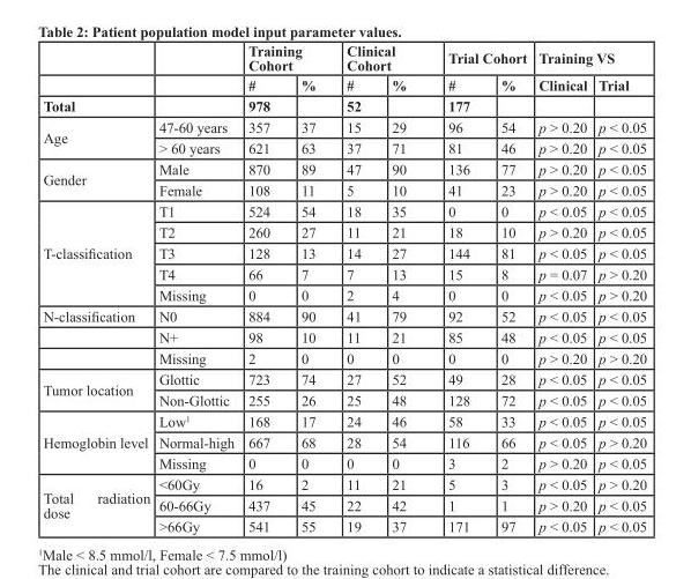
<table><thead><tr><td rowspan="3">total</td><td rowspan="3"></td><td colspan="2">Training cohort</td><td colspan="2">clinical cohort</td><td colspan="2">trial cohort</td><td colspan="2">Training VS</td></tr><tr><td rowspan="2"># 978</td><td rowspan="2">%</td><td rowspan="2"># 52</td><td rowspan="2">%</td><td rowspan="2"># 177</td><td rowspan="2">%</td><td rowspan="2">clinical</td><td rowspan="2">trial</td></tr><tr></tr></thead><tbody><tr><td rowspan="2">Age</td><td>47-60 years</td><td>357</td><td>37</td><td>15</td><td>29</td><td>96</td><td>54</td><td>p &gt; 0.20</td><td>p &lt; 0.05</td></tr><tr><td>&gt; 60 years</td><td>621</td><td>63</td><td>37</td><td>71</td><td>81</td><td>46</td><td>p &gt; 0.20</td><td>p &lt; 0.05</td></tr><tr><td rowspan="2">Gender</td><td>Male</td><td>870</td><td>89</td><td>47</td><td>90</td><td>136</td><td>77</td><td>p &gt; 0.20</td><td>p &lt; 0.05</td></tr><tr><td>Female</td><td>108</td><td>11</td><td>5</td><td>10</td><td>41</td><td>23</td><td>p &gt; 0.20</td><td>p &lt; 0.05</td></tr><tr><td rowspan="5">T-classification</td><td>T1</td><td>524</td><td>54</td><td>18</td><td>35</td><td>0</td><td>0</td><td>p &lt; 0.05</td><td>p &lt; 0.05</td></tr><tr><td>T2</td><td>260</td><td>27</td><td>11</td><td>21</td><td>18</td><td>10</td><td>p &gt; 0.20</td><td>p &lt; 0.05</td></tr><tr><td>T3</td><td>128</td><td>13</td><td>14</td><td>27</td><td>144</td><td>81</td><td>p &lt; 0.05</td><td>p &lt; 0.05</td></tr><tr><td>T4</td><td>66</td><td>7</td><td>7</td><td>13</td><td>15</td><td>8</td><td>p = 0.07</td><td>p &gt; 0.20</td></tr><tr><td>Missing</td><td>0</td><td>0</td><td>2</td><td>4</td><td>0</td><td>0</td><td>p &lt; 0.05</td><td>p &gt; 0.20</td></tr><tr><td rowspan="3">N-classification</td><td>N0</td><td>884</td><td>90</td><td>41</td><td>79</td><td>92</td><td>52</td><td>p &lt; 0.05</td><td>p &lt; 0.05</td></tr><tr><td>N+</td><td>98</td><td>10</td><td>11</td><td>21</td><td>85</td><td>48</td><td>p &lt; 0.05</td><td>p &lt; 0.05</td></tr><tr><td>Missing</td><td>2</td><td>0</td><td>0</td><td>0</td><td>0</td><td>0</td><td>p &gt; 0.20</td><td>p &gt; 0.20</td></tr><tr><td rowspan="2">Tumor location</td><td>Glottic</td><td>723</td><td>74</td><td>27</td><td>52</td><td>49</td><td>28</td><td>p &lt; 0.05</td><td>p &lt; 0.05</td></tr><tr><td>Non-Glottic</td><td>255</td><td>26</td><td>25</td><td>48</td><td>128</td><td>72</td><td>p &lt; 0.05</td><td>p &lt; 0.05</td></tr><tr><td rowspan="3">Hemoglobin level</td><td>Low<sup>1</sup></td><td>168</td><td>17</td><td>24</td><td>46</td><td>58</td><td>33</td><td>p &lt; 0.05</td><td>p &lt; 0.05</td></tr><tr><td>Normal-high</td><td>667</td><td>68</td><td>28</td><td>54</td><td>116</td><td>66</td><td>p &lt; 0.05</td><td>p &gt; 0.20</td></tr><tr><td>Missing</td><td>0</td><td>0</td><td>0</td><td>0</td><td>3</td><td>2</td><td>p &gt; 0.20</td><td>p &lt; 0.05</td></tr><tr><td rowspan="3">Total radiation dose</td><td>&lt;60Gy</td><td>16</td><td>2</td><td>11</td><td>21</td><td>5</td><td>3</td><td>p &lt; 0.05</td><td>p &gt; 0.20</td></tr><tr><td>60-66Gy</td><td>437</td><td>45</td><td>22</td><td>42</td><td>1</td><td>1</td><td>p &gt; 0.20</td><td>p &lt; 0.05</td></tr><tr><td>&gt;66Gy</td><td>541</td><td>55</td><td>19</td><td>37</td><td>171</td><td>97</td><td>p &lt; 0.05</td><td>p &lt; 0.05</td></tr></tbody></table>